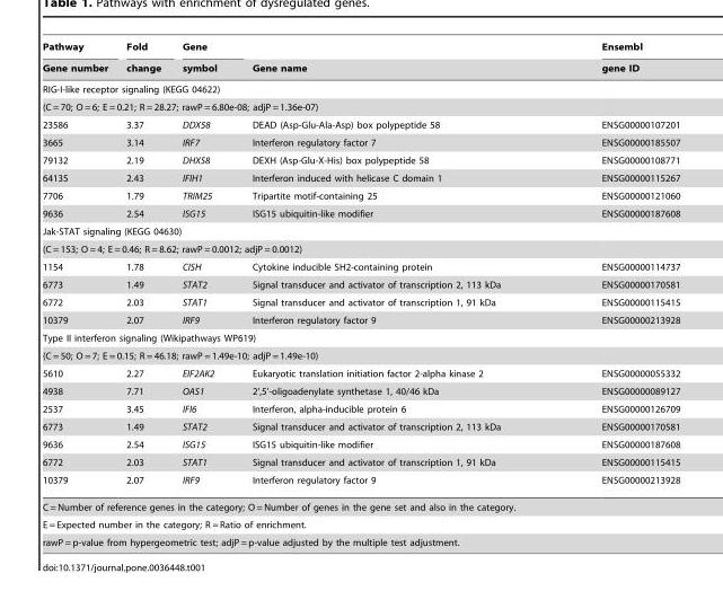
<table><thead><tr><td rowspan="2">Pathway Gene number</td><td rowspan="2">Fold change</td><td rowspan="2">Gene symbol</td><td rowspan="2">Gene name</td><td rowspan="2">Ensembl gene ID</td></tr><tr></tr></thead><tbody><tr><td colspan="5">RIG-I-like receptor signaling (KEGG 04622)</td></tr><tr><td colspan="5">(C = 70; O = 6; E = 0.21; R = 28.27; rawP = 6.80e-08; adjP = 1.36e-07)</td></tr><tr><td>23586</td><td>3.37</td><td>DDX58</td><td>DEAD (Asp-Glu-Ala-Asp) box polypeptide 58</td><td>ENSG00000107201</td></tr><tr><td>3665</td><td>3.14</td><td>IRF7</td><td>Interferon regulatory factor 7</td><td>ENSG00000185507</td></tr><tr><td>79132</td><td>2.19</td><td>DHX58</td><td>DEXH (Asp-Glu-X-His) box polypeptide 58</td><td>ENSG00000108771</td></tr><tr><td>64135</td><td>2.43</td><td>IFIH1</td><td>Interferon induced with helicase C domain 1</td><td>ENSG00000115267</td></tr><tr><td>7706</td><td>1.79</td><td>TRIM25</td><td>Tripartite motif-containing 25</td><td>ENSG00000121060</td></tr><tr><td>9636</td><td>2.54</td><td>ISG15</td><td>ISG15 ubiquitin-like modifier</td><td>ENSG00000187608</td></tr><tr><td colspan="5">Jak-STAT signaling (KEGG 04630)</td></tr><tr><td colspan="5">(C = 153; O = 4; E = 0.46; R = 8.62; rawP = 0.0012; adjP = 0.0012)</td></tr><tr><td>1154</td><td>1.78</td><td>CISH</td><td>Cytokine inducible SH2-containing protein</td><td>ENSG00000114737</td></tr><tr><td>6773</td><td>1.49</td><td>STAT2</td><td>Signal transducer and activator of transcription 2, 113 kDa</td><td>ENSG00000170581</td></tr><tr><td>6772</td><td>2.03</td><td>STAT1</td><td>Signal transducer and activator of transcription 1, 91 kDa</td><td>ENSG00000115415</td></tr><tr><td>10379</td><td>2.07</td><td>IRF9</td><td>Interferon regulatory factor 9</td><td>ENSG00000213928</td></tr><tr><td colspan="5">Type II interferon signaling (Wikipathways WP619)</td></tr><tr><td colspan="5">(C = 50; O = 7; E = 0.15; R = 46.18; rawP = 1.49e-10; adjP = 1.49e-10)</td></tr><tr><td>5610</td><td>2.27</td><td>EIF2AK2</td><td>Eukaryotic translation initiation factor 2-alpha kinase 2</td><td>ENSG00000055332</td></tr><tr><td>4938</td><td>7.71</td><td>OAS1</td><td>2’,5’-oligoadenylate synthetase 1, 40/46 kDa</td><td>ENSG00000089127</td></tr><tr><td>2537</td><td>3.45</td><td>IFI6</td><td>Interferon, alpha-inducible protein 6</td><td>ENSG00000126709</td></tr><tr><td>6773</td><td>1.49</td><td>STAT2</td><td>Signal transducer and activator of transcription 2, 113 kDa</td><td>ENSG00000170581</td></tr><tr><td>9636</td><td>2.54</td><td>ISG15</td><td>ISG15 ubiquitin-like modifier</td><td>ENSG00000187608</td></tr><tr><td>6772</td><td>2.03</td><td>STAT1</td><td>Signal transducer and activator of transcription 1, 91 kDa</td><td>ENSG00000115415</td></tr><tr><td>10379</td><td>2.07</td><td>IRF9</td><td>Interferon regulatory factor 9</td><td>ENSG00000213928</td></tr><tr><td colspan="5">C = Number of reference genes in the category; O = Number of genes in the gene set and also in the category.</td></tr><tr><td colspan="5">E = Expected number in the category; R = Ratio of enrichment.</td></tr><tr><td colspan="5">rawP = p-value from hypergeometric test; adjP = p-value adjusted by the multiple test adjustment.</td></tr></tbody></table>